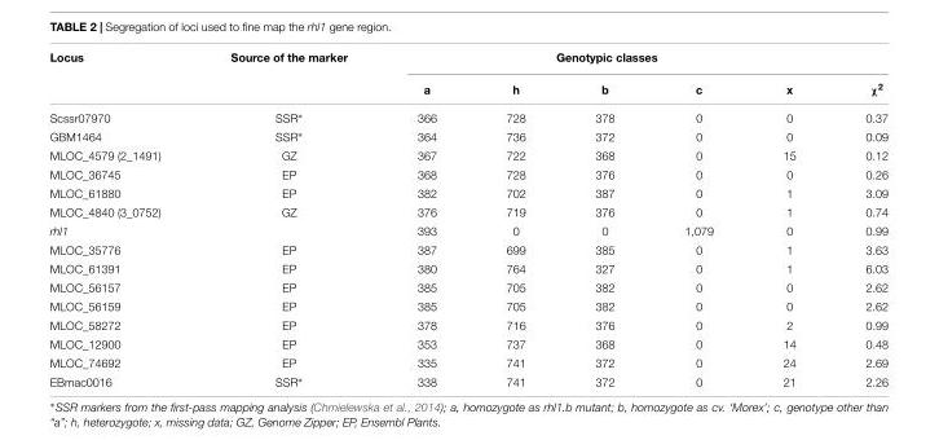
<table><thead><tr><td rowspan="2">Locus</td><td rowspan="2">Source of the marker</td><td colspan="5">Genotypic classes</td><td rowspan="2">χ<sup>2</sup></td></tr><tr><td>a</td><td>h</td><td>b</td><td>c</td><td>x</td></tr></thead><tbody><tr><td>Scssr07970</td><td>SSR∗</td><td>366</td><td>728</td><td>378</td><td>0</td><td>0</td><td>0.37</td></tr><tr><td>GBM1464</td><td>SSR∗</td><td>364</td><td>736</td><td>372</td><td>0</td><td>0</td><td>0.09</td></tr><tr><td>MLOC_4579 (2_1491)</td><td>GZ</td><td>367</td><td>722</td><td>368</td><td>0</td><td>15</td><td>0.12</td></tr><tr><td>MLOC_36745</td><td>EP</td><td>368</td><td>728</td><td>376</td><td>0</td><td>0</td><td>0.26</td></tr><tr><td>MLOC_61880</td><td>EP</td><td>382</td><td>702</td><td>387</td><td>0</td><td>1</td><td>3.09</td></tr><tr><td>MLOC_4840 (3_0752)</td><td>GZ</td><td>376</td><td>719</td><td>376</td><td>0</td><td>1</td><td>0.74</td></tr><tr><td>rhl1</td><td></td><td>393</td><td>0</td><td>0</td><td>1,079</td><td>0</td><td>0.99</td></tr><tr><td>MLOC_35776</td><td>EP</td><td>387</td><td>699</td><td>385</td><td>0</td><td>1</td><td>3.63</td></tr><tr><td>MLOC_61391</td><td>EP</td><td>380</td><td>764</td><td>327</td><td>0</td><td>1</td><td>6.03</td></tr><tr><td>MLOC_56157</td><td>EP</td><td>385</td><td>705</td><td>382</td><td>0</td><td>0</td><td>2.62</td></tr><tr><td>MLOC_56159</td><td>EP</td><td>385</td><td>705</td><td>382</td><td>0</td><td>0</td><td>2.62</td></tr><tr><td>MLOC_58272</td><td>EP</td><td>378</td><td>716</td><td>376</td><td>0</td><td>2</td><td>0.99</td></tr><tr><td>MLOC_12900</td><td>EP</td><td>353</td><td>737</td><td>368</td><td>0</td><td>14</td><td>0.48</td></tr><tr><td>MLOC_74692</td><td>EP</td><td>335</td><td>741</td><td>372</td><td>0</td><td>24</td><td>2.69</td></tr><tr><td>EBmac0016</td><td>SSR∗</td><td>338</td><td>741</td><td>372</td><td>0</td><td>21</td><td>2.26</td></tr></tbody></table>